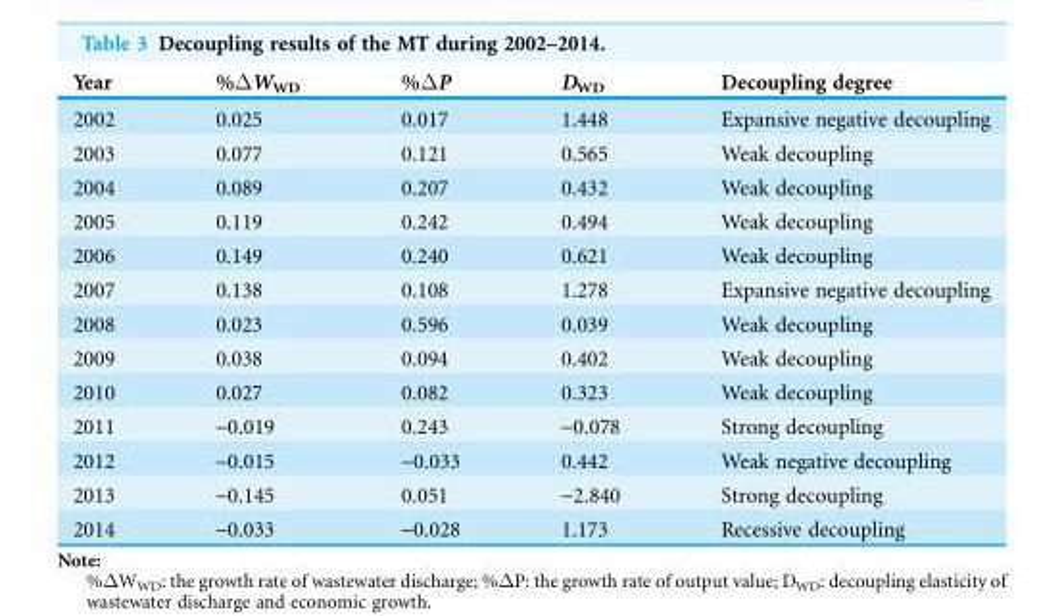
<table><thead><tr><td>Year</td><td>%ΔW<sub>WD</sub></td><td>%ΔP</td><td>D<sub>WD</sub></td><td>Decoupling degree</td></tr></thead><tbody><tr><td>2002</td><td>0.025</td><td>0.017</td><td>1.448</td><td>Expansive negative decoupling</td></tr><tr><td>2003</td><td>0.077</td><td>0.121</td><td>0.565</td><td>Weak decoupling</td></tr><tr><td>2004</td><td>0.089</td><td>0.207</td><td>0.432</td><td>Weak decoupling</td></tr><tr><td>2005</td><td>0.119</td><td>0.242</td><td>0.494</td><td>Weak decoupling</td></tr><tr><td>2006</td><td>0.149</td><td>0.240</td><td>0.621</td><td>Weak decoupling</td></tr><tr><td>2007</td><td>0.138</td><td>0.108</td><td>1.278</td><td>Expansive negative decoupling</td></tr><tr><td>2008</td><td>0.023</td><td>0.596</td><td>0.039</td><td>Weak decoupling</td></tr><tr><td>2009</td><td>0.038</td><td>0.094</td><td>0.402</td><td>Weak decoupling</td></tr><tr><td>2010</td><td>0.027</td><td>0.082</td><td>0.323</td><td>Weak decoupling</td></tr><tr><td>2011</td><td>-0.019</td><td>0.243</td><td>-0.078</td><td>Strong decoupling</td></tr><tr><td>2012</td><td>-0.015</td><td>-0.033</td><td>0.442</td><td>Weak negative decoupling</td></tr><tr><td>2013</td><td>-0.145</td><td>0.051</td><td>-2.840</td><td>Strong decoupling</td></tr><tr><td>2014</td><td>-0.033</td><td>-0.028</td><td>1.173</td><td>Recessive decoupling</td></tr></tbody></table>